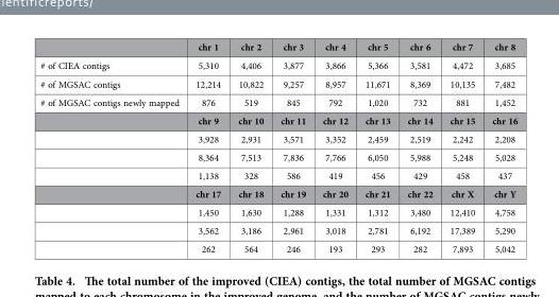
<table><thead><tr><td></td><td>chr 1</td><td>chr 2</td><td>chr 3</td><td>chr 4</td><td>chr 5</td><td>chr 6</td><td>chr 7</td><td>chr 8</td></tr></thead><tbody><tr><td># of CIEA contigs</td><td>5,310</td><td>4,406</td><td>3,877</td><td>3,866</td><td>5,366</td><td>3,581</td><td>4,472</td><td>3,685</td></tr><tr><td># of MGSAC contigs</td><td>12,214</td><td>10,822</td><td>9,257</td><td>8,957</td><td>11,671</td><td>8,369</td><td>10,135</td><td>7,482</td></tr><tr><td rowspan="9"># of MGSAC contigs newly mapped</td><td>876</td><td>519</td><td>845</td><td>792</td><td>1,020</td><td>732</td><td>881</td><td>1,452</td></tr><tr><td>chr 9</td><td>chr 10</td><td>chr 11</td><td>chr 12</td><td>chr 13</td><td>chr 14</td><td>chr 15</td><td>chr 16</td></tr><tr><td>3,928</td><td>2,931</td><td>3,571</td><td>3,352</td><td>2,459</td><td>2,519</td><td>2,242</td><td>2,208</td></tr><tr><td>8,364</td><td>7,513</td><td>7,836</td><td>7,766</td><td>6,050</td><td>5,988</td><td>5,248</td><td>5,028</td></tr><tr><td>1,138</td><td>328</td><td>586</td><td>419</td><td>456</td><td>429</td><td>458</td><td>437</td></tr><tr><td>chr 17</td><td>chr 18</td><td>chr 19</td><td>chr 20</td><td>chr 21</td><td>chr 22</td><td>chr X</td><td>chr Y</td></tr><tr><td>1,450</td><td>1,630</td><td>1,288</td><td>1,331</td><td>1,312</td><td>3,480</td><td>12,410</td><td>4,758</td></tr><tr><td>3,562</td><td>3,186</td><td>2,961</td><td>3,018</td><td>2,781</td><td>6,192</td><td>17,389</td><td>5,290</td></tr><tr><td>262</td><td>564</td><td>246</td><td>193</td><td>293</td><td>282</td><td>7,893</td><td>5,042</td></tr></tbody></table>